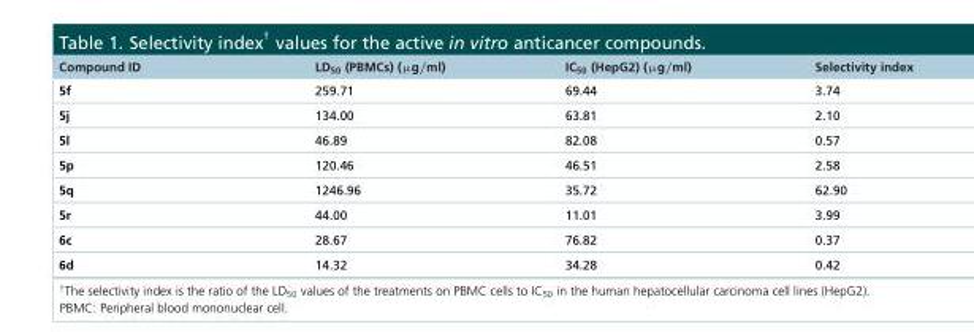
<table><thead><tr><td>Compound ID</td><td>LD<sub>50</sub> (PBMCs) (μg/ml)</td><td>IC<sub>50</sub> (HepG2) (μg/ml)</td><td>Selectivity index</td></tr></thead><tbody><tr><td>5f</td><td>259.71</td><td>69.44</td><td>3.74</td></tr><tr><td>5j</td><td>134.00</td><td>63.81</td><td>2.10</td></tr><tr><td>5l</td><td>46.89</td><td>82.08</td><td>0.57</td></tr><tr><td>5p</td><td>120.46</td><td>46.51</td><td>2.58</td></tr><tr><td>5q</td><td>1246.96</td><td>35.72</td><td>62.90</td></tr><tr><td>5r</td><td>44.00</td><td>11.01</td><td>3.99</td></tr><tr><td>6c</td><td>28.67</td><td>76.82</td><td>0.37</td></tr><tr><td>6d</td><td>14.32</td><td>34.28</td><td>0.42</td></tr></tbody></table>